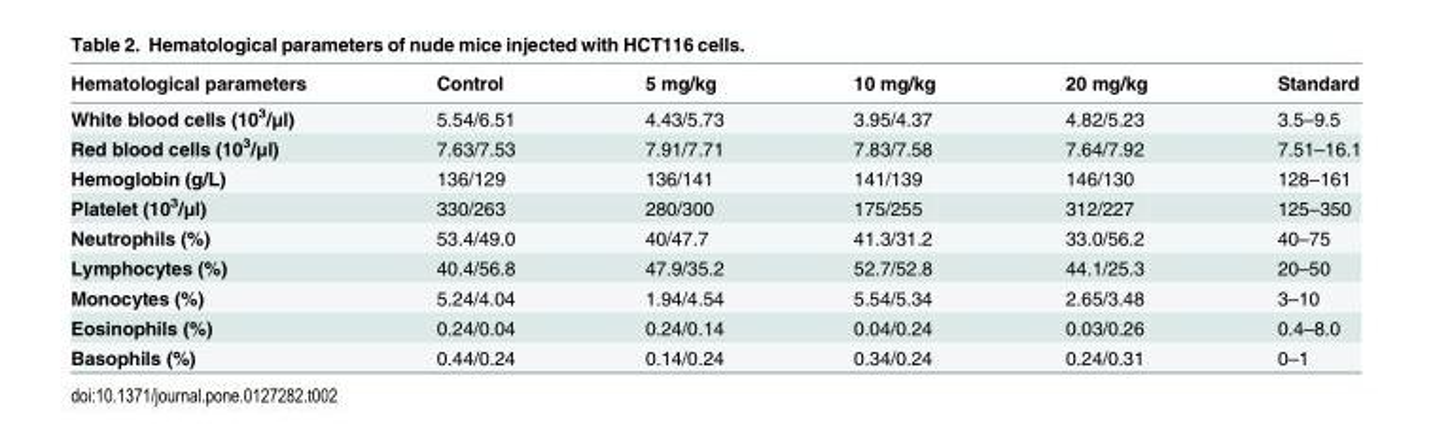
<table><thead><tr><td>Hematological parameters</td><td>Control</td><td>5 mg/kg</td><td>10 mg/kg</td><td>20 mg/kg</td><td>Standard</td></tr></thead><tbody><tr><td>White blood cells (10<sup>3</sup>/μl)</td><td>5.54/6.51</td><td>4.43/5.73</td><td>3.95/4.37</td><td>4.82/5.23</td><td>3.5–9.5</td></tr><tr><td>Red blood cells (10<sup>3</sup>/μl)</td><td>7.63/7.53</td><td>7.91/7.71</td><td>7.83/7.58</td><td>7.64/7.92</td><td>7.51–16.1</td></tr><tr><td>Hemoglobin (g/L)</td><td>136/129</td><td>136/141</td><td>141/139</td><td>146/130</td><td>128–161</td></tr><tr><td>Platelet (10<sup>3</sup>/μl)</td><td>330/263</td><td>280/300</td><td>175/255</td><td>312/227</td><td>125–350</td></tr><tr><td>Neutrophils (%)</td><td>53.4/49.0</td><td>40/47.7</td><td>41.3/31.2</td><td>33.0/56.2</td><td>40–75</td></tr><tr><td>Lymphocytes (%)</td><td>40.4/56.8</td><td>47.9/35.2</td><td>52.7/52.8</td><td>44.1/25.3</td><td>20–50</td></tr><tr><td>Monocytes (%)</td><td>5.24/4.04</td><td>1.94/4.54</td><td>5.54/5.34</td><td>2.65/3.48</td><td>3–10</td></tr><tr><td>Eosinophils (%)</td><td>0.24/0.04</td><td>0.24/0.14</td><td>0.04/0.24</td><td>0.03/0.26</td><td>0.4–8.0</td></tr><tr><td>Basophils (%)</td><td>0.44/0.24</td><td>0.14/0.24</td><td>0.34/0.24</td><td>0.24/0.31</td><td>0–1</td></tr></tbody></table>